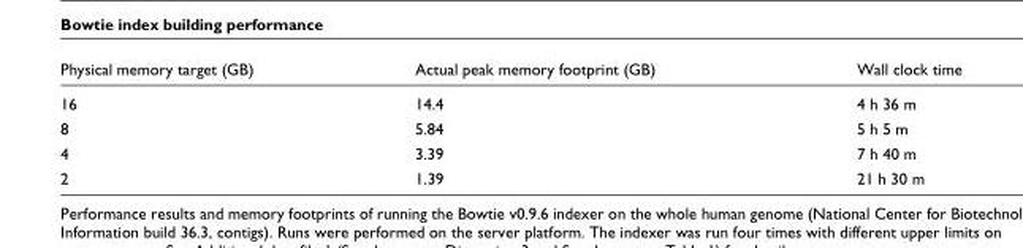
<table><thead><tr><td>Physical memory target (GB)</td><td>Actual peak memory footprint (GB)</td><td>Wall clock time</td></tr></thead><tbody><tr><td>16</td><td>14.4</td><td>4 h 36 m</td></tr><tr><td>8</td><td>5.84</td><td>5 h 5 m</td></tr><tr><td>4</td><td>3.39</td><td>7 h 40 m</td></tr><tr><td>2</td><td>1.39</td><td>21 h 30 m</td></tr></tbody></table>